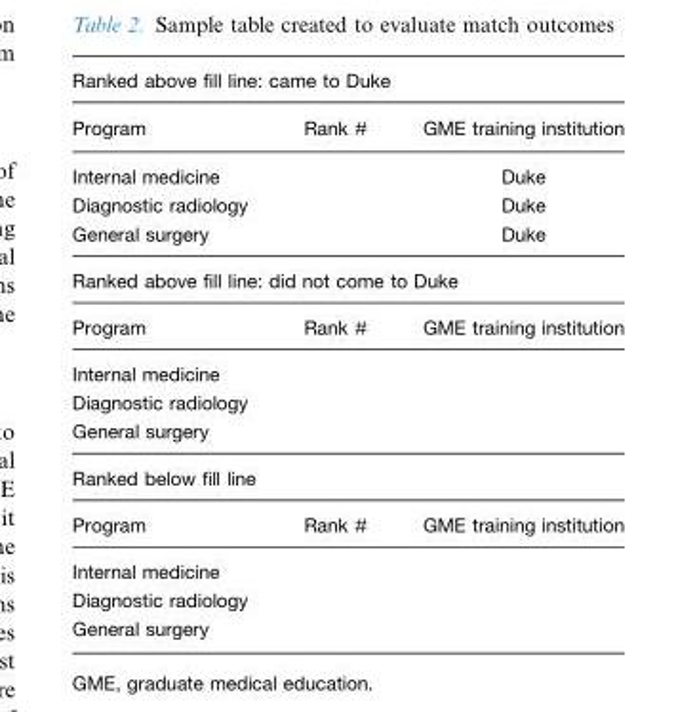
<table><thead><tr><td colspan="3">Ranked above fill line: came to Duke</td></tr><tr><td>Program</td><td>Rank #</td><td>GME training institution</td></tr></thead><tbody><tr><td>Internal medicine</td><td></td><td>Duke</td></tr><tr><td>Diagnostic radiology</td><td></td><td>Duke</td></tr><tr><td>General surgery</td><td></td><td>Duke</td></tr><tr><td colspan="3">Ranked above fill line: did not come to Duke</td></tr><tr><td>Program</td><td>Rank #</td><td>GME training institution</td></tr><tr><td colspan="3">Internal medicine</td></tr><tr><td colspan="3">Diagnostic radiology</td></tr><tr><td colspan="3">General surgery</td></tr><tr><td colspan="3">Ranked below fill line</td></tr><tr><td>Program</td><td>Rank #</td><td>GME training institution</td></tr><tr><td colspan="3">Internal medicine</td></tr><tr><td colspan="3">Diagnostic radiology</td></tr><tr><td>General surgery</td><td></td><td></td></tr></tbody></table>